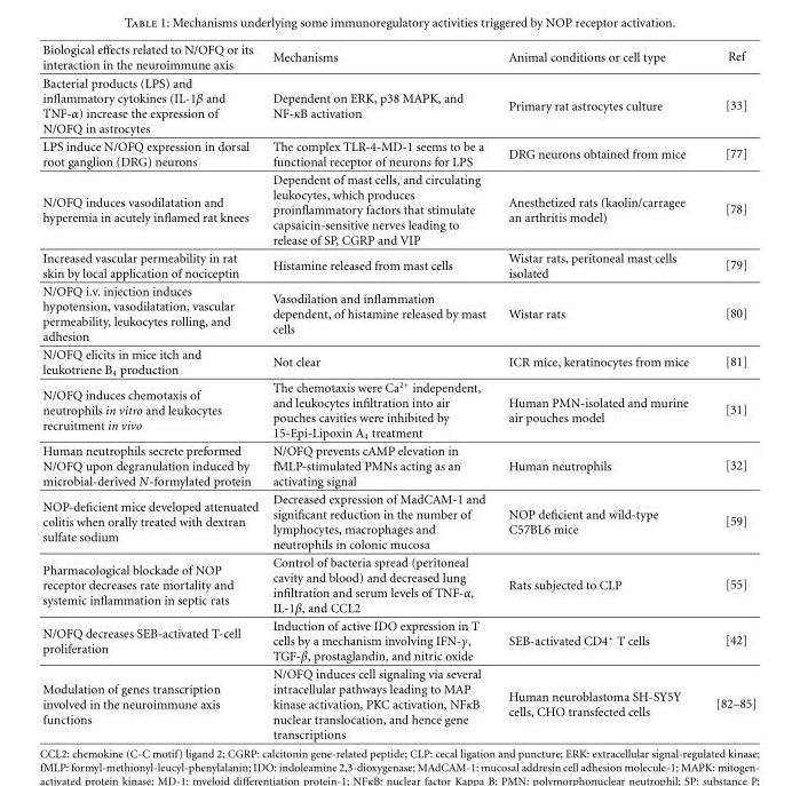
<table><thead><tr><td>Biological effects related to N/OFQ or its interaction in the neuroimmune axis</td><td>Mechanisms</td><td>Animal conditions or cell type</td><td>Ref</td></tr></thead><tbody><tr><td>Bacterial products (LPS) and inflammatory cytokines (IL-1β and TNF-α) increase the expression of N/OFQ in astrocytes</td><td>Dependent on ERK, p38 MAPK, and NF-κB activation</td><td>Primary rat astrocytes culture</td><td>[33]</td></tr><tr><td>LPS induce N/OFQ expression in dorsal root ganglion (DRG) neurons</td><td>The complex TLR-4-MD-1 seems to be a functional receptor of neurons for LPS</td><td>DRG neurons obtained from mice</td><td>[77]</td></tr><tr><td>N/OFQ induces vasodilatation and hyperemia in acutely inflamed rat knees</td><td>Dependent of mast cells, and circulating leukocytes, which produces proinflammatory factors that stimulate capsaicin-sensitive nerves leading to release of SP, CGRP and VIP</td><td>Anesthetized rats (kaolin/carragee an arthritis model)</td><td>[78]</td></tr><tr><td>Increased vascular permeability in rat skin by local application of nociceptin</td><td>Histamine released from mast cells</td><td>Wistar rats, peritoneal mast cells isolated</td><td>[79]</td></tr><tr><td>N/OFQ i.v. injection induces hypotension, vasodilatation, vascular permeability, leukocytes rolling, and adhesion</td><td>Vasodilation and inflammation dependent, of histamine released by mast cells</td><td>Wistar rats</td><td>[80]</td></tr><tr><td>N/OFQ elicits in mice itch and leukotriene B<sub>4</sub> production</td><td>Not clear</td><td>ICR mice, keratinocytes from mice</td><td>[81]</td></tr><tr><td>N/OFQ induces chemotaxis of neutrophils in vitro and leukocytes recruitment in vivo</td><td>The chemotaxis were Ca<sup>2+</sup> independent, and leukocytes infiltration into air pouches cavities were inhibited by 15-Epi-Lipoxin A<sub>4</sub> treatment</td><td>Human PMN-isolated and murine air pouches model</td><td>[31]</td></tr><tr><td>Human neutrophils secrete preformed N/OFQ upon degranulation induced by microbial-derived N-formylated protein</td><td>N/OFQ prevents cAMP elevation in fMLP-stimulated PMNs acting as an activating signal</td><td>Human neutrophils</td><td>[32]</td></tr><tr><td>NOP-deficient mice developed attenuated colitis when orally treated with dextran sulfate sodium</td><td>Decreased expression of MadCAM-1 and significant reduction in the number of lymphocytes, macrophages and neutrophils in colonic mucosa</td><td>NOP deficient and wild-type C57BL6 mice</td><td>[59]</td></tr><tr><td>Pharmacological blockade of NOP receptor decreases rate mortality and systemic inflammation in septic rats</td><td>Control of bacteria spread (peritoneal cavity and blood) and decreased lung infiltration and serum levels of TNF-α, IL-1β, and CCL2</td><td>Rats subjected to CLP</td><td>[55]</td></tr><tr><td>N/OFQ decreases SEB-activated T-cell proliferation</td><td>Induction of active IDO expression in T cells by a mechanism involving IFN-γ, TGF-β, prostaglandin, and nitric oxide</td><td>SEB-activated CD4<sup>+</sup> T cells</td><td>[42]</td></tr><tr><td>Modulation of genes transcription involved in the neuroimmune axis functions</td><td>N/OFQ induces cell signaling via several intracellular pathways leading to MAP kinase activation, PKC activation, NFκB nuclear translocation, and hence gene transcriptions</td><td>Human neuroblastoma SH-SY5Y cells, CHO transfected cells</td><td>[82–85]</td></tr></tbody></table>